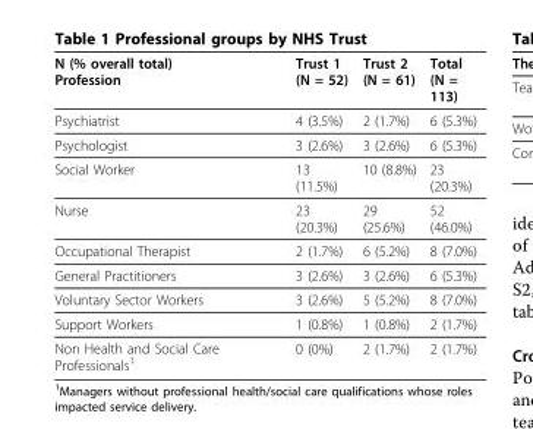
<table><thead><tr><td>N (% overall total) Profession</td><td>Trust 1 (N = 52)</td><td>Trust 2 (N = 61)</td><td>Total (N = 113)</td></tr></thead><tbody><tr><td>Psychiatrist</td><td>4 (3.5%)</td><td>2 (1.7%)</td><td>6 (5.3%)</td></tr><tr><td>Psychologist</td><td>3 (2.6%)</td><td>3 (2.6%)</td><td>6 (5.3%)</td></tr><tr><td>Social Worker</td><td>13 (11.5%)</td><td>10 (8.8%)</td><td>23 (20.3%)</td></tr><tr><td>Nurse</td><td>23 (20.3%)</td><td>29 (25.6%)</td><td>52 (46.0%)</td></tr><tr><td>Occupational Therapist</td><td>2 (1.7%)</td><td>6 (5.2%)</td><td>8 (7.0%)</td></tr><tr><td>General Practitioners</td><td>3 (2.6%)</td><td>3 (2.6%)</td><td>6 (5.3%)</td></tr><tr><td>Voluntary Sector Workers</td><td>3 (2.6%)</td><td>5 (5.2%)</td><td>8 (7.0%)</td></tr><tr><td>Support Workers</td><td>1 (0.8%)</td><td>1 (0.8%)</td><td>2 (1.7%)</td></tr><tr><td>Non Health and Social Care Professionals<sup>1</sup></td><td>0 (0%)</td><td>2 (1.7%)</td><td>2 (1.7%)</td></tr></tbody></table>